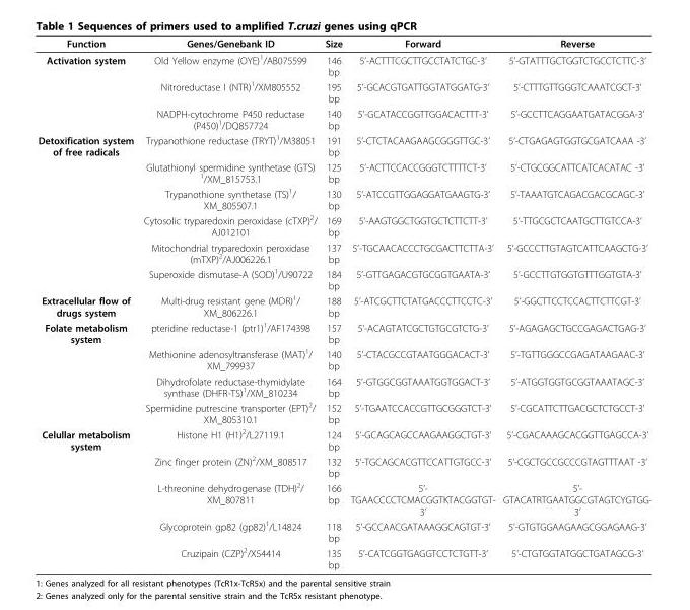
<table><thead><tr><td>Function</td><td>Genes/Genebank ID</td><td>Size</td><td>Forward</td><td>Reverse</td></tr></thead><tbody><tr><td rowspan="3">Activation system</td><td>Old Yellow enzyme (OYE)<sup>1</sup>/AB075599</td><td>146 bp</td><td>5’-ACTTTCGCTTGCCTATCTGC-3’</td><td>5’-GTATTTGCTGGTCTGCCTCTTC-3’</td></tr><tr><td>Nitroreductase I (NTR)<sup>1</sup>/XM805552</td><td>195 bp</td><td>5’-GCACGTGATTGGTATGGATG-3’</td><td>5’-CTTTGTTGGGTCAAATCGCT-3’</td></tr><tr><td>NADPH-cytochrome P450 reductase (P450)<sup>1</sup>/DQ857724</td><td>140 bp</td><td>5’-GCATACCGGTTGGACACTTT-3’</td><td>5’-GCCTTCAGGAATGATACGGA-3’</td></tr><tr><td rowspan="6">Detoxification system of free radicals</td><td>Trypanothione reductase (TRYT)<sup>1</sup>/M38051</td><td>191 bp</td><td>5’-CTCTACAAGAAGCGGGTTGC-3’</td><td>5’-CTGAGAGTGGTGCGATCAAA -3’</td></tr><tr><td>Glutathionyl spermidine synthetase (GTS) <sup>1</sup>/XM_815753.1</td><td>125 bp</td><td>5’-ACTTCCACCGGGTCTTTTCT-3’</td><td>5’-CTGCGGCATTCATCACATAC -3’</td></tr><tr><td>Trypanothione synthetase (TS)<sup>1</sup>/ XM_805507.1</td><td>130 bp</td><td>5’-ATCCGTTGGAGGATGAAGTG-3’</td><td>5’-TAAATGTCAGACGACGCAGC-3’</td></tr><tr><td>Cytosolic tryparedoxin peroxidase (cTXP)<sup>2</sup>/ AJ012101</td><td>169 bp</td><td>5’-AAGTGGCTGGTGCTCTTCTT-3’</td><td>5’-TTGCGCTCAATGCTTGTCCA-3’</td></tr><tr><td>Mitochondrial tryparedoxin peroxidase (mTXP)<sup>2</sup>/AJ006226.1</td><td>137 bp</td><td>5’-TGCAACACCCTGCGACTTCTTA-3’</td><td>5’-GCCCTTGTAGTCATTCAAGCTG-3’</td></tr><tr><td>Superoxide dismutase-A (SOD)<sup>1</sup>/U90722</td><td>184 bp</td><td>5’-GTTGAGACGTGCGGTGAATA-3’</td><td>5’-GCCTTGTGGTGTTTGGTGTA-3’</td></tr><tr><td>Extracellular flow of drugs system</td><td>Multi-drug resistant gene (MDR)<sup>1</sup>/ XM_806226.1</td><td>188 bp</td><td>5’-ATCGCTTCTATGACCCTTCCTC-3’</td><td>5’-GGCTTCCTCCACTTCTTCGT-3’</td></tr><tr><td rowspan="4">Folate metabolism system</td><td>pteridine reductase-1 (ptr1)<sup>1</sup>/AF174398</td><td>157 bp</td><td>5’-ACAGTATCGCTGTGCGTCTG-3’</td><td>5’-AGAGAGCTGCCGAGACTGAG-3’</td></tr><tr><td>Methionine adenosyltransferase (MAT)<sup>1</sup>/ XM_799937</td><td>140 bp</td><td>5’-CTACGCCGTAATGGGACACT-3’</td><td>5’-TGTTGGGCCGAGATAAGAAC-3’</td></tr><tr><td>Dihydrofolate reductase-thymidylate synthase (DHFR-TS)<sup>1</sup>/XM_810234</td><td>164 bp</td><td>5’-GTGGCGGTAAATGGTGGACT-3’</td><td>5’-ATGGTGGTGCGGTAAATAGC-3’</td></tr><tr><td>Spermidine putrescine transporter (EPT)<sup>2</sup>/ XM_805310.1</td><td>152 bp</td><td>5’-TGAATCCACCGTTGCGGGTCT-3’</td><td>5’-CGCATTCTTGACGCTCTGCCT-3’</td></tr><tr><td rowspan="5">Celullar metabolism system</td><td>Histone H1 (H1)<sup>2</sup>/L27119.1</td><td>124 bp</td><td>5’-GCAGCAGCCAAGAAGGCTGT-3’</td><td>5’-CGACAAAGCACGGTTGAGCCA-3’</td></tr><tr><td>Zinc finger protein (ZN)<sup>2</sup>/XM_808517</td><td>132 bp</td><td>5’-TGCAGCACGTTCCATTGTGCC-3’</td><td>5’-CGCTGCCGCCCGTAGTTTAAT -3’</td></tr><tr><td>L-threonine dehydrogenase (TDH)<sup>2</sup>/ XM_807811</td><td>166 bp</td><td>5’- TGAACCCCTCMACGGTKTACGGTGT- 3’</td><td>5’- GTACATRTGAATGGCGTAGTCYGTGG- 3’</td></tr><tr><td>Glycoprotein gp82 (gp82)<sup>1</sup>/L14824</td><td>118 bp</td><td>5’-GCCAACGATAAAGGCAGTGT-3’</td><td>5’-GTGTGGAAGAAGCGGAGAAG-3’</td></tr><tr><td>Cruzipain (CZP)<sup>2</sup>/X54414</td><td>135 bp</td><td>5’-CATCGGTGAGGTCCTCTGTT-3’</td><td>5’-CTGTGGTATGGCTGATAGCG-3’</td></tr></tbody></table>